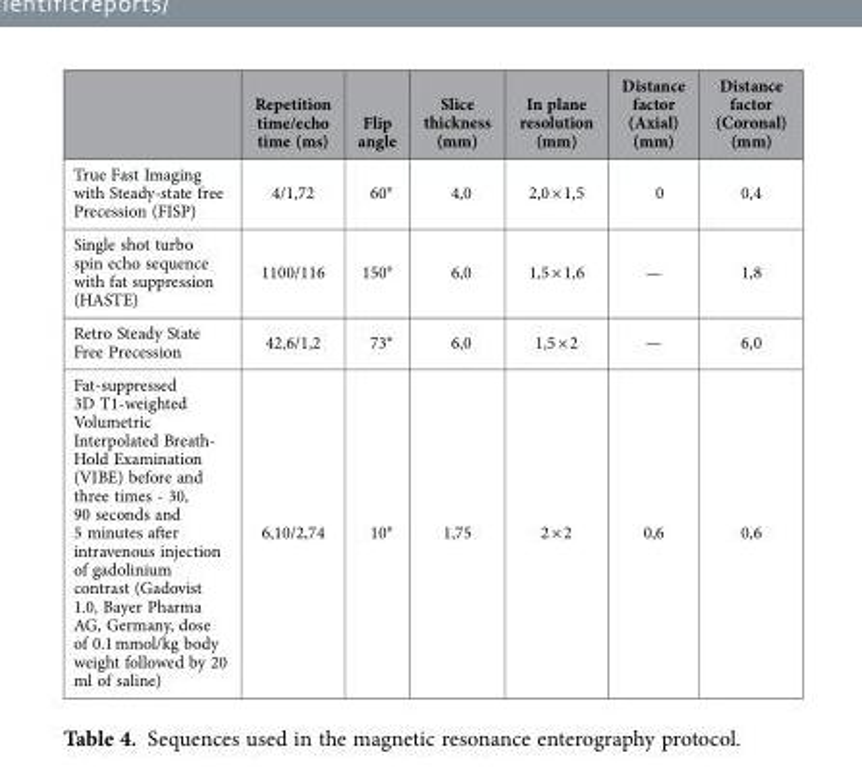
<table><thead><tr><td></td><td>Repetition time/echo time (ms)</td><td>Flip angle</td><td>Slice thickness (mm)</td><td>In plane resolution (mm)</td><td>Distance factor (Axial) (mm)</td><td>Distance factor (Coronal) (mm)</td></tr></thead><tbody><tr><td>True Fast Imaging with Steady-state free Precession (FISP)</td><td>4/1,72</td><td>60°</td><td>4,0</td><td>2,0 × 1,5</td><td>0</td><td>0,4</td></tr><tr><td>Single shot turbo spin echo sequence with fat suppression (HASTE)</td><td>1100/116</td><td>150°</td><td>6,0</td><td>1,5 × 1,6</td><td>—</td><td>1,8</td></tr><tr><td>Retro Steady State Free Precession</td><td>42,6/1,2</td><td>73°</td><td>6,0</td><td>1,5 × 2</td><td>—</td><td>6,0</td></tr><tr><td>Fat-suppressed 3D T1-weighted Volumetric Interpolated Breath- Hold Examination (VIBE) before and three times - 30, 90 seconds and 5 minutes after intravenous injection of gadolinium contrast (Gadovist 1.0, Bayer Pharma AG, Germany, dose of 0.1 mmol/kg body weight followed by 20 ml of saline)</td><td>6,10/2,74</td><td>10°</td><td>1,75</td><td>2 × 2</td><td>0,6</td><td>0,6</td></tr></tbody></table>